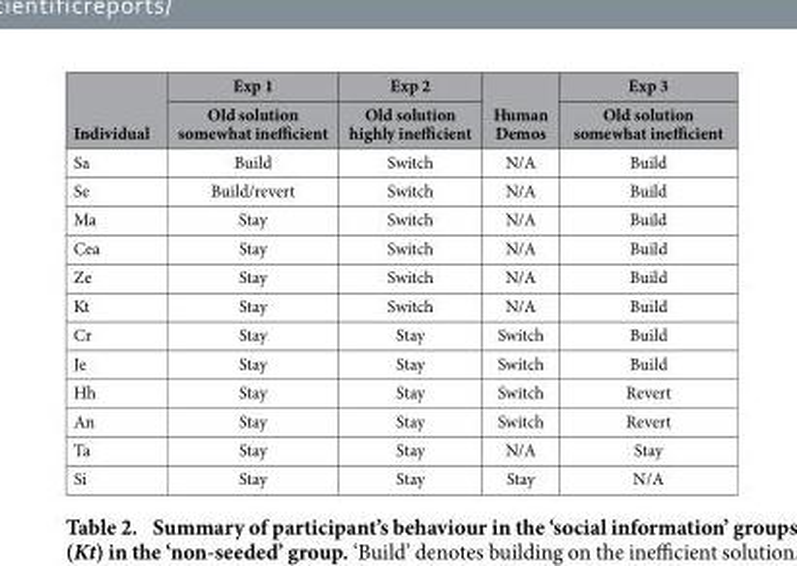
<table><thead><tr><td rowspan="2">Individual</td><td rowspan="2">Exp 1 Old solution somewhat inefficient</td><td rowspan="2">Exp 2 Old solution highly inefficient</td><td rowspan="2">Human Demos</td><td rowspan="2">Exp 3 Old solution somewhat inefficient</td></tr><tr></tr></thead><tbody><tr><td>Sa</td><td>Build</td><td>Switch</td><td>N/A</td><td>Build</td></tr><tr><td>Se</td><td>Build/revert</td><td>Switch</td><td>N/A</td><td>Build</td></tr><tr><td>Ma</td><td>Stay</td><td>Switch</td><td>N/A</td><td>Build</td></tr><tr><td>Cea</td><td>Stay</td><td>Switch</td><td>N/A</td><td>Build</td></tr><tr><td>Ze</td><td>Stay</td><td>Switch</td><td>N/A</td><td>Build</td></tr><tr><td>Kt</td><td>Stay</td><td>Switch</td><td>N/A</td><td>Build</td></tr><tr><td>Cr</td><td>Stay</td><td>Stay</td><td>Switch</td><td>Build</td></tr><tr><td>Je</td><td>Stay</td><td>Stay</td><td>Switch</td><td>Build</td></tr><tr><td>Hh</td><td>Stay</td><td>Stay</td><td>Switch</td><td>Revert</td></tr><tr><td>An</td><td>Stay</td><td>Stay</td><td>Switch</td><td>Revert</td></tr><tr><td>Ta</td><td>Stay</td><td>Stay</td><td>N/A</td><td>Stay</td></tr><tr><td>Si</td><td>Stay</td><td>Stay</td><td>Stay</td><td>N/A</td></tr></tbody></table>